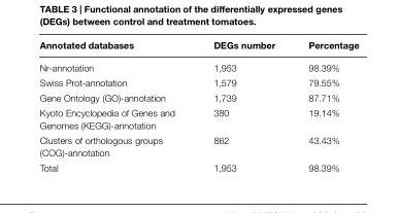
<table><thead><tr><td>Annotated databases</td><td>DEGs number</td><td>Percentage</td></tr></thead><tbody><tr><td>Nr-annotation</td><td>1,953</td><td>98.39%</td></tr><tr><td>Swiss Prot-annotation</td><td>1,579</td><td>79.55%</td></tr><tr><td>Gene Ontology (GO)-annotation</td><td>1,739</td><td>87.71%</td></tr><tr><td>Kyoto Encyclopedia of Genes and Genomes (KEGG)-annotation</td><td>380</td><td>19.14%</td></tr><tr><td>Clusters of orthologous groups (COG)-annotation</td><td>862</td><td>43.43%</td></tr><tr><td>Total</td><td>1,953</td><td>98.39%</td></tr></tbody></table>